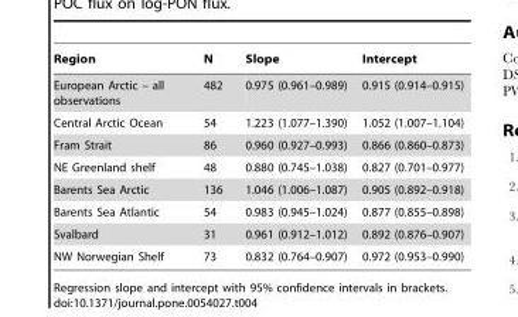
<table><thead><tr><td>Region</td><td>N</td><td>Slope</td><td>Intercept</td></tr></thead><tbody><tr><td>European Arctic – all observations</td><td>482</td><td>0.975 (0.961–0.989)</td><td>0.915 (0.914–0.915)</td></tr><tr><td>Central Arctic Ocean</td><td>54</td><td>1.223 (1.077–1.390)</td><td>1.052 (1.007–1.104)</td></tr><tr><td>Fram Strait</td><td>86</td><td>0.960 (0.927–0.993)</td><td>0.866 (0.860–0.873)</td></tr><tr><td>NE Greenland shelf</td><td>48</td><td>0.880 (0.745–1.038)</td><td>0.827 (0.701–0.977)</td></tr><tr><td>Barents Sea Arctic</td><td>136</td><td>1.046 (1.006–1.087)</td><td>0.905 (0.892–0.918)</td></tr><tr><td>Barents Sea Atlantic</td><td>54</td><td>0.983 (0.945–1.024)</td><td>0.877 (0.855–0.898)</td></tr><tr><td>Svalbard</td><td>31</td><td>0.961 (0.912–1.012)</td><td>0.892 (0.876–0.907)</td></tr><tr><td>NW Norwegian Shelf</td><td>73</td><td>0.832 (0.764–0.907)</td><td>0.972 (0.953–0.990)</td></tr></tbody></table>